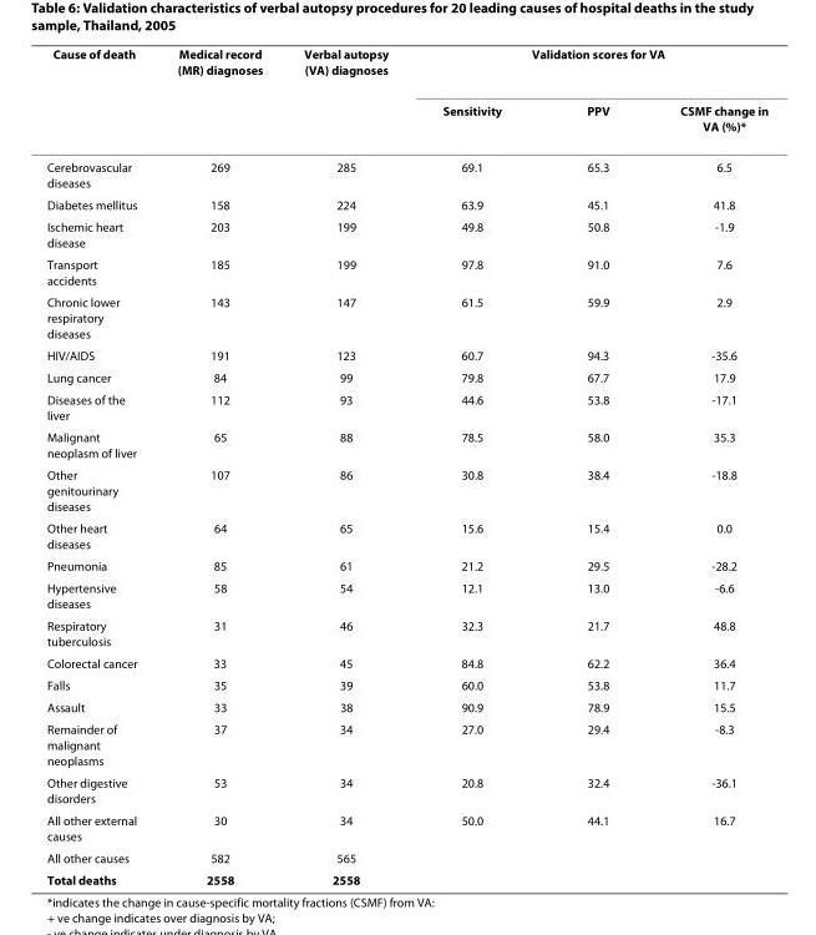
<table><thead><tr><td rowspan="2">Cause of death</td><td rowspan="2">Medical record (MR) diagnoses</td><td rowspan="2">Verbal autopsy (VA) diagnoses</td><td colspan="3">Validation scores for VA</td></tr><tr><td>Sensitivity</td><td>PPV</td><td>CSMF change in VA (%)*</td></tr></thead><tbody><tr><td>Cerebrovascular diseases</td><td>269</td><td>285</td><td>69.1</td><td>65.3</td><td>6.5</td></tr><tr><td>Diabetes mellitus</td><td>158</td><td>224</td><td>63.9</td><td>45.1</td><td>41.8</td></tr><tr><td>Ischemic heart disease</td><td>203</td><td>199</td><td>49.8</td><td>50.8</td><td>-1.9</td></tr><tr><td>Transport accidents</td><td>185</td><td>199</td><td>97.8</td><td>91.0</td><td>7.6</td></tr><tr><td>Chronic lower respiratory diseases</td><td>143</td><td>147</td><td>61.5</td><td>59.9</td><td>2.9</td></tr><tr><td>HIV/AIDS</td><td>191</td><td>123</td><td>60.7</td><td>94.3</td><td>-35.6</td></tr><tr><td>Lung cancer</td><td>84</td><td>99</td><td>79.8</td><td>67.7</td><td>17.9</td></tr><tr><td>Diseases of the liver</td><td>112</td><td>93</td><td>44.6</td><td>53.8</td><td>-17.1</td></tr><tr><td>Malignant neoplasm of liver</td><td>65</td><td>88</td><td>78.5</td><td>58.0</td><td>35.3</td></tr><tr><td>Other genitourinary diseases</td><td>107</td><td>86</td><td>30.8</td><td>38.4</td><td>-18.8</td></tr><tr><td>Other heart diseases</td><td>64</td><td>65</td><td>15.6</td><td>15.4</td><td>0.0</td></tr><tr><td>Pneumonia</td><td>85</td><td>61</td><td>21.2</td><td>29.5</td><td>-28.2</td></tr><tr><td>Hypertensive diseases</td><td>58</td><td>54</td><td>12.1</td><td>13.0</td><td>-6.6</td></tr><tr><td>Respiratory tuberculosis</td><td>31</td><td>46</td><td>32.3</td><td>21.7</td><td>48.8</td></tr><tr><td>Colorectal cancer</td><td>33</td><td>45</td><td>84.8</td><td>62.2</td><td>36.4</td></tr><tr><td>Falls</td><td>35</td><td>39</td><td>60.0</td><td>53.8</td><td>11.7</td></tr><tr><td>Assault</td><td>33</td><td>38</td><td>90.9</td><td>78.9</td><td>15.5</td></tr><tr><td>Remainder of malignant neoplasms</td><td>37</td><td>34</td><td>27.0</td><td>29.4</td><td>-8.3</td></tr><tr><td>Other digestive disorders</td><td>53</td><td>34</td><td>20.8</td><td>32.4</td><td>-36.1</td></tr><tr><td>All other external causes</td><td>30</td><td>34</td><td>50.0</td><td>44.1</td><td>16.7</td></tr><tr><td>All other causes</td><td>582</td><td>565</td><td></td><td></td><td></td></tr><tr><td>Total deaths</td><td>2558</td><td>2558</td><td></td><td></td><td></td></tr></tbody></table>